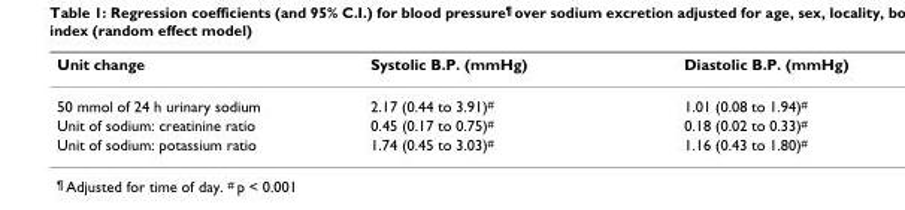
<table><thead><tr><td>Unit change</td><td>Systolic B.P. (mmHg)</td><td>Diastolic B.P. (mmHg)</td></tr></thead><tbody><tr><td>50 mmol of 24 h urinary sodium</td><td>2.17 (0.44 to 3.91)#</td><td>1.01 (0.08 to 1.94)#</td></tr><tr><td>Unit of sodium: creatinine ratio</td><td>0.45 (0.17 to 0.75)#</td><td>0.18 (0.02 to 0.33)#</td></tr><tr><td>Unit of sodium: potassium ratio</td><td>1.74 (0.45 to 3.03)#</td><td>1.16 (0.43 to 1.80)#</td></tr></tbody></table>